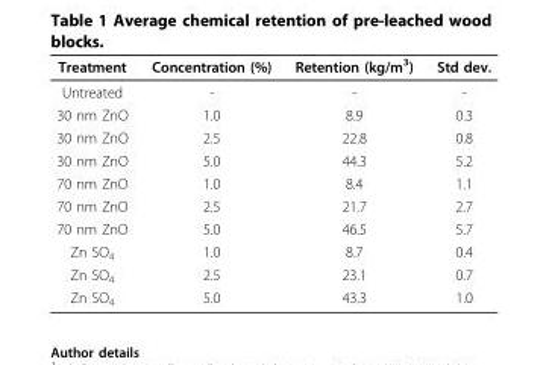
<table><thead><tr><td>Treatment</td><td>Concentration (%)</td><td>Retention (kg/m<sup>3</sup>)</td><td>Std dev.</td></tr></thead><tbody><tr><td>Untreated</td><td>-</td><td>-</td><td>-</td></tr><tr><td>30 nm ZnO</td><td>1.0</td><td>8.9</td><td>0.3</td></tr><tr><td>30 nm ZnO</td><td>2.5</td><td>22.8</td><td>0.8</td></tr><tr><td>30 nm ZnO</td><td>5.0</td><td>44.3</td><td>5.2</td></tr><tr><td>70 nm ZnO</td><td>1.0</td><td>8.4</td><td>1.1</td></tr><tr><td>70 nm ZnO</td><td>2.5</td><td>21.7</td><td>2.7</td></tr><tr><td>70 nm ZnO</td><td>5.0</td><td>46.5</td><td>5.7</td></tr><tr><td>Zn SO<sub>4</sub></td><td>1.0</td><td>8.7</td><td>0.4</td></tr><tr><td>Zn SO<sub>4</sub></td><td>2.5</td><td>23.1</td><td>0.7</td></tr><tr><td>Zn SO<sub>4</sub></td><td>5.0</td><td>43.3</td><td>1.0</td></tr></tbody></table>